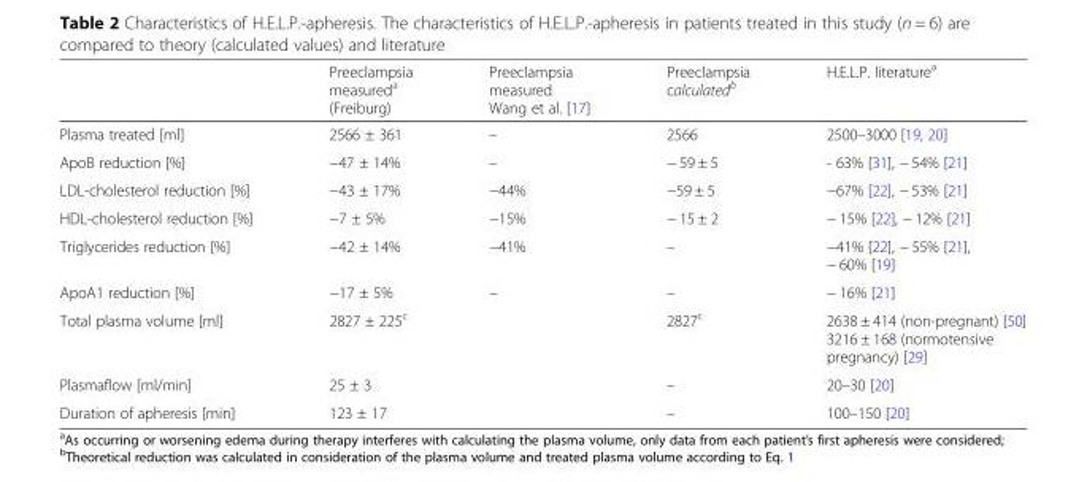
<table><thead><tr><td></td><td>Preeclampsia measured<sup>a</sup> (Freiburg)</td><td>Preeclampsia measured Wang et al. [17]</td><td>Preeclampsia calculated<sup>b</sup></td><td>H.E.L.P. literature<sup>a</sup></td></tr></thead><tbody><tr><td>Plasma treated [ml]</td><td>2566 ± 361</td><td>–</td><td>2566</td><td>2500–3000 [19, 20]</td></tr><tr><td>ApoB reduction [%]</td><td>−47 ± 14%</td><td>–</td><td>− 59 ± 5</td><td>- 63% [31], − 54% [21]</td></tr><tr><td>LDL-cholesterol reduction [%]</td><td>−43 ± 17%</td><td>−44%</td><td>−59 ± 5</td><td>−67% [22], − 53% [21]</td></tr><tr><td>HDL-cholesterol reduction [%]</td><td>−7 ± 5%</td><td>−15%</td><td>− 15 ± 2</td><td>− 15% [22], − 12% [21]</td></tr><tr><td>Triglycerides reduction [%]</td><td>−42 ± 14%</td><td>−41%</td><td>–</td><td>−41% [22], − 55% [21], − 60% [19]</td></tr><tr><td>ApoA1 reduction [%]</td><td>−17 ± 5%</td><td>–</td><td>–</td><td>− 16% [21]</td></tr><tr><td>Total plasma volume [ml]</td><td>2827 ± 225<sup>c</sup></td><td></td><td>2827<sup>c</sup></td><td>2638 ± 414 (non-pregnant) [50] 3216 ± 168 (normotensive pregnancy) [29]</td></tr><tr><td>Plasmaflow [ml/min]</td><td>25 ± 3</td><td></td><td>–</td><td>20–30 [20]</td></tr><tr><td>Duration of apheresis [min]</td><td>123 ± 17</td><td></td><td>–</td><td>100–150 [20]</td></tr></tbody></table>